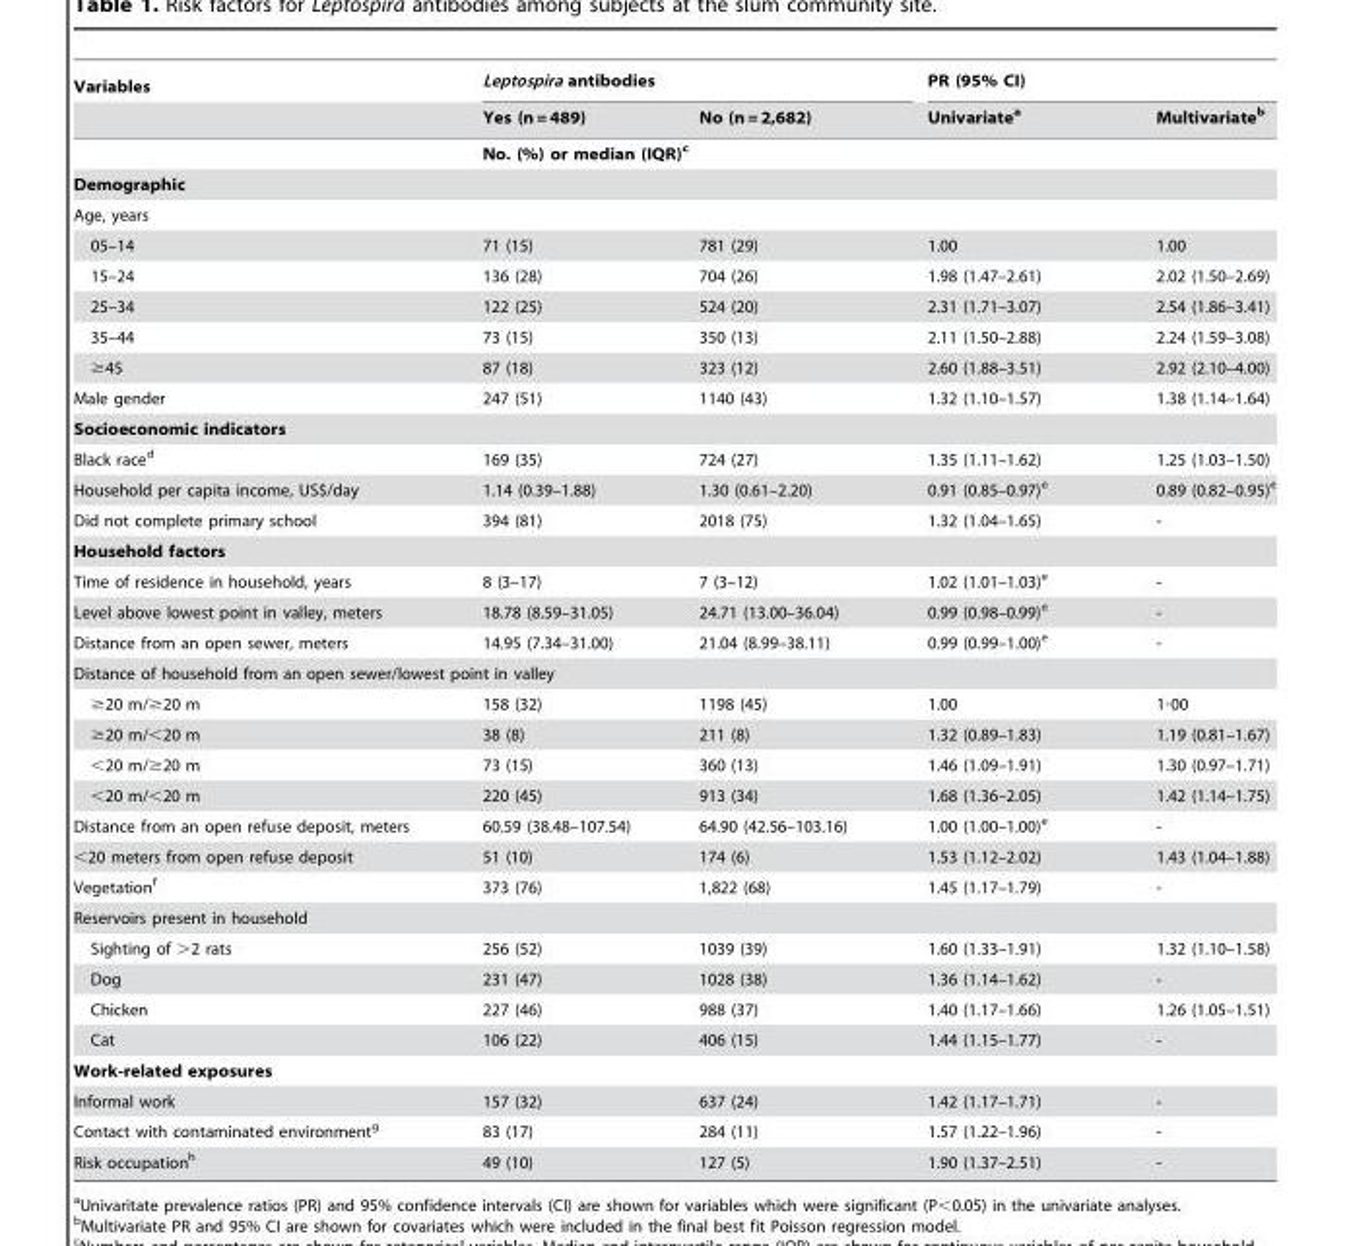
<table><thead><tr><td rowspan="2">Variables</td><td colspan="2">Leptospira antibodies</td><td colspan="2">PR (95% CI)</td></tr><tr><td>Yes (n = 489)</td><td>No (n = 2,682)</td><td>Univariate<sup>a</sup></td><td>Multivariate<sup>b</sup></td></tr></thead><tbody><tr><td></td><td colspan="4">No. (%) or median (IQR)c</td></tr><tr><td colspan="5">Demographic</td></tr><tr><td colspan="5">Age, years</td></tr><tr><td>05–14</td><td>71 (15)</td><td>781 (29)</td><td>1.00</td><td>1.00</td></tr><tr><td>15–24</td><td>136 (28)</td><td>704 (26)</td><td>1.98 (1.47–2.61)</td><td>2.02 (1.50–2.69)</td></tr><tr><td>25–34</td><td>122 (25)</td><td>524 (20)</td><td>2.31 (1.71–3.07)</td><td>2.54 (1.86–3.41)</td></tr><tr><td>35–44</td><td>73 (15)</td><td>350 (13)</td><td>2.11 (1.50–2.88)</td><td>2.24 (1.59–3.08)</td></tr><tr><td>≥45</td><td>87 (18)</td><td>323 (12)</td><td>2.60 (1.88–3.51)</td><td>2.92 (2.10–4.00)</td></tr><tr><td>Male gender</td><td>247 (51)</td><td>1140 (43)</td><td>1.32 (1.10–1.57)</td><td>1.38 (1.14–1.64)</td></tr><tr><td colspan="5">Socioeconomic indicators</td></tr><tr><td>Black race<sup>d</sup></td><td>169 (35)</td><td>724 (27)</td><td>1.35 (1.11–1.62)</td><td>1.25 (1.03–1.50)</td></tr><tr><td>Household per capita income, US$/day</td><td>1.14 (0.39–1.88)</td><td>1.30 (0.61–2.20)</td><td>0.91 (0.85–0.97)<sup>e</sup></td><td>0.89 (0.82–0.95)<sup>e</sup></td></tr><tr><td>Did not complete primary school</td><td>394 (81)</td><td>2018 (75)</td><td>1.32 (1.04–1.65)</td><td>-</td></tr><tr><td colspan="5">Household factors</td></tr><tr><td>Time of residence in household, years</td><td>8 (3–17)</td><td>7 (3–12)</td><td>1.02 (1.01–1.03)<sup>e</sup></td><td>-</td></tr><tr><td>Level above lowest point in valley, meters</td><td>18.78 (8.59–31.05)</td><td>24.71 (13.00–36.04)</td><td>0.99 (0.98–0.99)<sup>e</sup></td><td>-</td></tr><tr><td>Distance from an open sewer, meters</td><td>14.95 (7.34–31.00)</td><td>21.04 (8.99–38.11)</td><td>0.99 (0.99–1.00)<sup>e</sup></td><td>-</td></tr><tr><td colspan="5">Distance of household from an open sewer/lowest point in valley</td></tr><tr><td>≥20 m/≥20 m</td><td>158 (32)</td><td>1198 (45)</td><td>1.00</td><td>1·00</td></tr><tr><td>≥20 m/&lt;20 m</td><td>38 (8)</td><td>211 (8)</td><td>1.32 (0.89–1.83)</td><td>1.19 (0.81–1.67)</td></tr><tr><td>&lt;20 m/≥20 m</td><td>73 (15)</td><td>360 (13)</td><td>1.46 (1.09–1.91)</td><td>1.30 (0.97–1.71)</td></tr><tr><td>&lt;20 m/&lt;20 m</td><td>220 (45)</td><td>913 (34)</td><td>1.68 (1.36–2.05)</td><td>1.42 (1.14–1.75)</td></tr><tr><td>Distance from an open refuse deposit, meters</td><td>60.59 (38.48–107.54)</td><td>64.90 (42.56–103.16)</td><td>1.00 (1.00–1.00)<sup>e</sup></td><td>-</td></tr><tr><td>&lt;20 meters from open refuse deposit</td><td>51 (10)</td><td>174 (6)</td><td>1.53 (1.12–2.02)</td><td>1.43 (1.04–1.88)</td></tr><tr><td>Vegetation<sup>f</sup></td><td>373 (76)</td><td>1,822 (68)</td><td>1.45 (1.17–1.79)</td><td>-</td></tr><tr><td colspan="5">Reservoirs present in household</td></tr><tr><td>Sighting of &gt;2 rats</td><td>256 (52)</td><td>1039 (39)</td><td>1.60 (1.33–1.91)</td><td>1.32 (1.10–1.58)</td></tr><tr><td>Dog</td><td>231 (47)</td><td>1028 (38)</td><td>1.36 (1.14–1.62)</td><td>-</td></tr><tr><td>Chicken</td><td>227 (46)</td><td>988 (37)</td><td>1.40 (1.17–1.66)</td><td>1.26 (1.05–1.51)</td></tr><tr><td>Cat</td><td>106 (22)</td><td>406 (15)</td><td>1.44 (1.15–1.77)</td><td>-</td></tr><tr><td colspan="5">Work-related exposures</td></tr><tr><td>Informal work</td><td>157 (32)</td><td>637 (24)</td><td>1.42 (1.17–1.71)</td><td>-</td></tr><tr><td>Contact with contaminated environment<sup>g</sup></td><td>83 (17)</td><td>284 (11)</td><td>1.57 (1.22–1.96)</td><td>-</td></tr><tr><td>Risk occupation<sup>h</sup></td><td>49 (10)</td><td>127 (5)</td><td>1.90 (1.37–2.51)</td><td>-</td></tr></tbody></table>